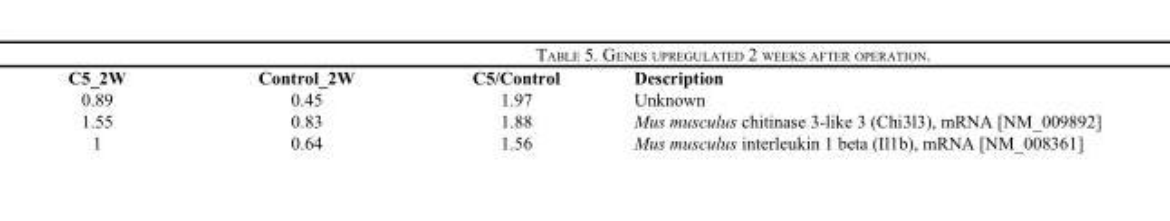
<table><thead><tr><td>C5_2W</td><td>Control_2W</td><td>C5/Control</td><td>Description</td></tr></thead><tbody><tr><td>0.89</td><td>0.45</td><td>1.97</td><td>Unknown</td></tr><tr><td>1.55</td><td>0.83</td><td>1.88</td><td>Mus musculus chitinase 3-like 3 (Chi3l3), mRNA [NM_009892]</td></tr><tr><td>1</td><td>0.64</td><td>1.56</td><td>Mus musculus interleukin 1 beta (Il1b), mRNA [NM_008361]</td></tr></tbody></table>